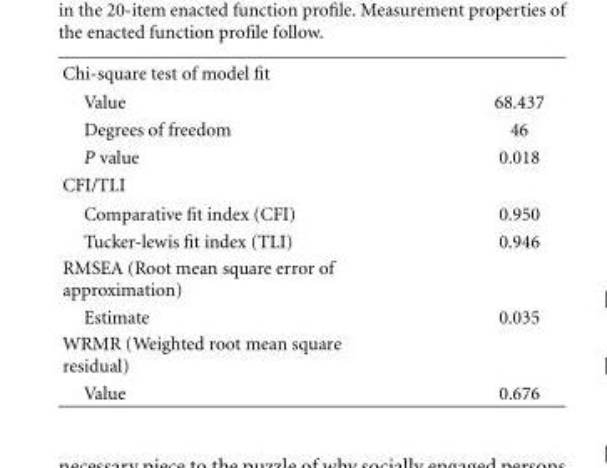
<table><tbody><tr><td colspan="2">Chi-square test of model fit</td></tr><tr><td>Value</td><td>68.437</td></tr><tr><td>Degrees of freedom</td><td>46</td></tr><tr><td>P value</td><td>0.018</td></tr><tr><td colspan="2">CFI/TLI</td></tr><tr><td>Comparative fit index (CFI)</td><td>0.950</td></tr><tr><td>Tucker-lewis fit index (TLI)</td><td>0.946</td></tr><tr><td colspan="2">RMSEA (Root mean square error of approximation)</td></tr><tr><td>Estimate</td><td>0.035</td></tr><tr><td colspan="2">WRMR (Weighted root mean square residual)</td></tr><tr><td>Value</td><td>0.676</td></tr></tbody></table>